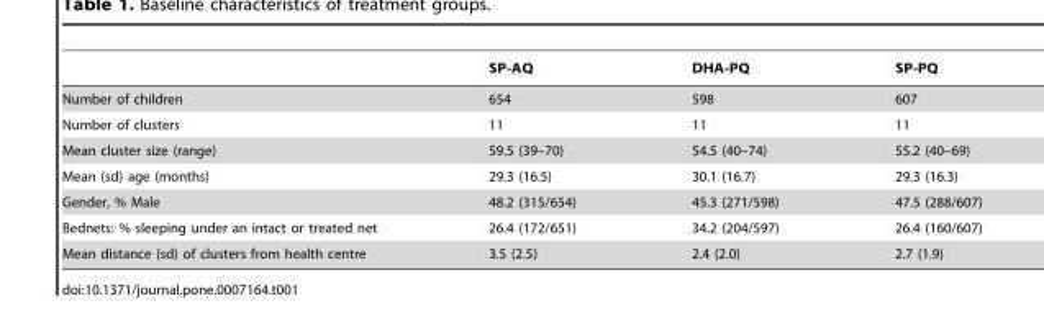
<table><thead><tr><td></td><td>SP-AQ</td><td>DHA-PQ</td><td>SP-PQ</td></tr></thead><tbody><tr><td>Number of children</td><td>654</td><td>598</td><td>607</td></tr><tr><td>Number of clusters</td><td>11</td><td>11</td><td>11</td></tr><tr><td>Mean cluster size (range)</td><td>59.5 (39–70)</td><td>54.5 (40–74)</td><td>55.2 (40–69)</td></tr><tr><td>Mean (sd) age (months)</td><td>29.3 (16.5)</td><td>30.1 (16.7)</td><td>29.3 (16.3)</td></tr><tr><td>Gender, % Male</td><td>48.2 (315/654)</td><td>45.3 (271/598)</td><td>47.5 (288/607)</td></tr><tr><td>Bednets: % sleeping under an intact or treated net</td><td>26.4 (172/651)</td><td>34.2 (204/597)</td><td>26.4 (160/607)</td></tr><tr><td>Mean distance (sd) of clusters from health centre</td><td>3.5 (2.5)</td><td>2.4 (2.0)</td><td>2.7 (1.9)</td></tr></tbody></table>